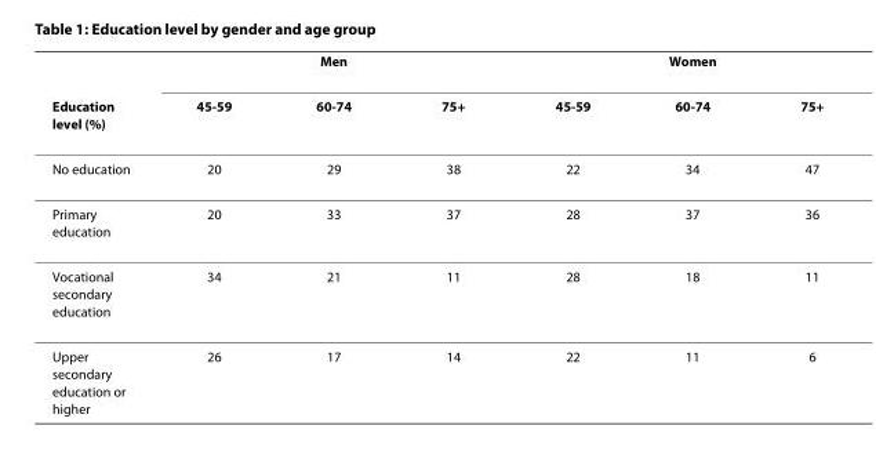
<table><thead><tr><td rowspan="2">Education level (%)</td><td colspan="3">Men</td><td colspan="3">Women</td></tr><tr><td>45-59</td><td>60-74</td><td>75+</td><td>45-59</td><td>60-74</td><td>75+</td></tr></thead><tbody><tr><td>No education</td><td>20</td><td>29</td><td>38</td><td>22</td><td>34</td><td>47</td></tr><tr><td>Primary education</td><td>20</td><td>33</td><td>37</td><td>28</td><td>37</td><td>36</td></tr><tr><td>Vocational secondary education</td><td>34</td><td>21</td><td>11</td><td>28</td><td>18</td><td>11</td></tr><tr><td>Upper secondary education or higher</td><td>26</td><td>17</td><td>14</td><td>22</td><td>11</td><td>6</td></tr></tbody></table>